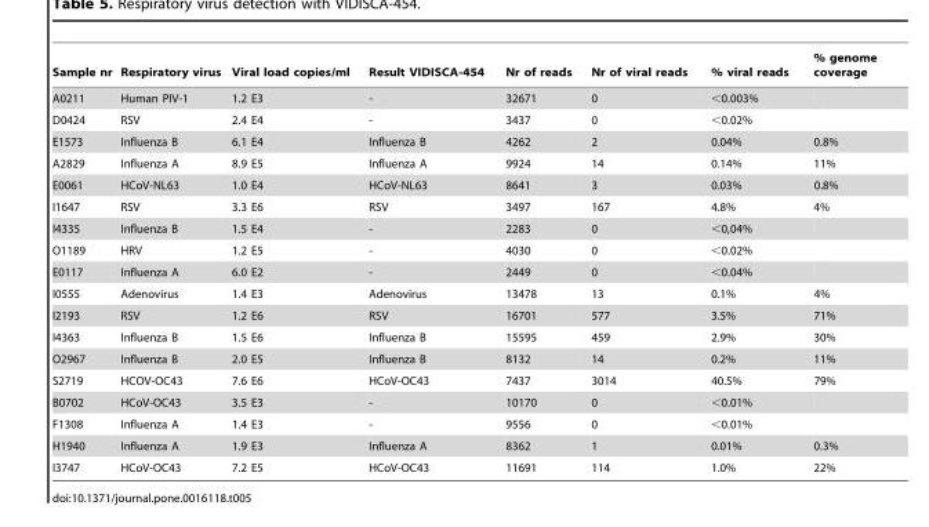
<table><thead><tr><td>Sample nr</td><td>Respiratory virus</td><td>Viral load copies/ml</td><td>Result VIDISCA-454</td><td>Nr of reads</td><td>Nr of viral reads</td><td>% viral reads</td><td>% genome coverage</td></tr></thead><tbody><tr><td>A0211</td><td>Human PIV-1</td><td>1.2 E3</td><td>-</td><td>32671</td><td>0</td><td>&lt;0.003%</td><td></td></tr><tr><td>D0424</td><td>RSV</td><td>2.4 E4</td><td>-</td><td>3437</td><td>0</td><td>&lt;0.02%</td><td></td></tr><tr><td>E1573</td><td>Influenza B</td><td>6.1 E4</td><td>Influenza B</td><td>4262</td><td>2</td><td>0.04%</td><td>0.8%</td></tr><tr><td>A2829</td><td>Influenza A</td><td>8.9 E5</td><td>Influenza A</td><td>9924</td><td>14</td><td>0.14%</td><td>11%</td></tr><tr><td>E0061</td><td>HCoV-NL63</td><td>1.0 E4</td><td>HCoV-NL63</td><td>8641</td><td>3</td><td>0.03%</td><td>0.8%</td></tr><tr><td>I1647</td><td>RSV</td><td>3.3 E6</td><td>RSV</td><td>3497</td><td>167</td><td>4.8%</td><td>4%</td></tr><tr><td>I4335</td><td>Influenza B</td><td>1.5 E4</td><td>-</td><td>2283</td><td>0</td><td>&lt;0,04%</td><td></td></tr><tr><td>O1189</td><td>HRV</td><td>1.2 E5</td><td>-</td><td>4030</td><td>0</td><td>&lt;0.02%</td><td></td></tr><tr><td>E0117</td><td>Influenza A</td><td>6.0 E2</td><td>-</td><td>2449</td><td>0</td><td>&lt;0.04%</td><td></td></tr><tr><td>I0555</td><td>Adenovirus</td><td>1.4 E3</td><td>Adenovirus</td><td>13478</td><td>13</td><td>0.1%</td><td>4%</td></tr><tr><td>I2193</td><td>RSV</td><td>1.2 E6</td><td>RSV</td><td>16701</td><td>577</td><td>3.5%</td><td>71%</td></tr><tr><td>I4363</td><td>Influenza B</td><td>1.5 E6</td><td>Influenza B</td><td>15595</td><td>459</td><td>2.9%</td><td>30%</td></tr><tr><td>O2967</td><td>Influenza B</td><td>2.0 E5</td><td>Influenza B</td><td>8132</td><td>14</td><td>0.2%</td><td>11%</td></tr><tr><td>S2719</td><td>HCOV-OC43</td><td>7.6 E6</td><td>HCoV-OC43</td><td>7437</td><td>3014</td><td>40.5%</td><td>79%</td></tr><tr><td>B0702</td><td>HCoV-OC43</td><td>3.5 E3</td><td>-</td><td>10170</td><td>0</td><td>&lt;0.01%</td><td></td></tr><tr><td>F1308</td><td>Influenza A</td><td>1.4 E3</td><td>-</td><td>9556</td><td>0</td><td>&lt;0.01%</td><td></td></tr><tr><td>H1940</td><td>Influenza A</td><td>1.9 E3</td><td>Influenza A</td><td>8362</td><td>1</td><td>0.01%</td><td>0.3%</td></tr><tr><td>I3747</td><td>HCoV-OC43</td><td>7.2 E5</td><td>HCoV-OC43</td><td>11691</td><td>114</td><td>1.0%</td><td>22%</td></tr></tbody></table>